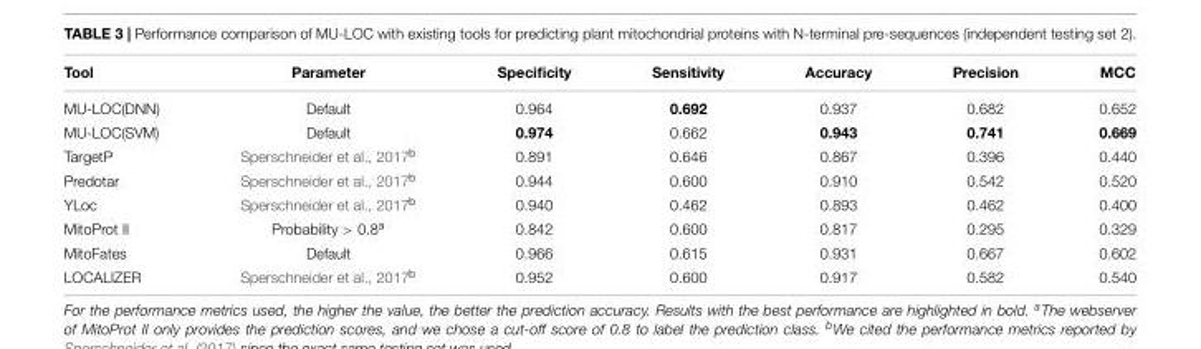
<table><thead><tr><td>Tool</td><td>Parameter</td><td>Specificity</td><td>Sensitivity</td><td>Accuracy</td><td>Precision</td><td>MCC</td></tr></thead><tbody><tr><td>MU-LOC(DNN)</td><td>Default</td><td>0.964</td><td>0.692</td><td>0.937</td><td>0.682</td><td>0.652</td></tr><tr><td>MU-LOC(SVM)</td><td>Default</td><td>0.974</td><td>0.662</td><td>0.943</td><td>0.741</td><td>0.669</td></tr><tr><td>TargetP</td><td>Sperschneider et al., 2017<sup>b</sup></td><td>0.891</td><td>0.646</td><td>0.867</td><td>0.396</td><td>0.440</td></tr><tr><td>Predotar</td><td>Sperschneider et al., 2017<sup>b</sup></td><td>0.944</td><td>0.600</td><td>0.910</td><td>0.542</td><td>0.520</td></tr><tr><td>YLoc</td><td>Sperschneider et al., 2017<sup>b</sup></td><td>0.940</td><td>0.462</td><td>0.893</td><td>0.462</td><td>0.400</td></tr><tr><td>MitoProt II</td><td>Probability &gt; 0.8<sup>a</sup></td><td>0.842</td><td>0.600</td><td>0.817</td><td>0.295</td><td>0.329</td></tr><tr><td>MitoFates</td><td>Default</td><td>0.966</td><td>0.615</td><td>0.931</td><td>0.667</td><td>0.602</td></tr><tr><td>LOCALIZER</td><td>Sperschneider et al., 2017<sup>b</sup></td><td>0.952</td><td>0.600</td><td>0.917</td><td>0.582</td><td>0.540</td></tr></tbody></table>